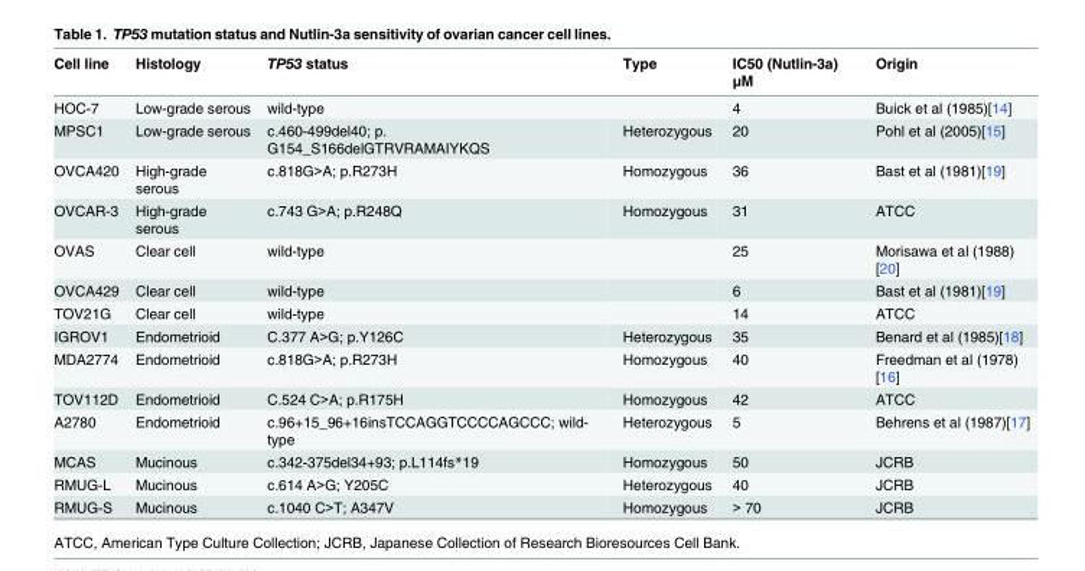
<table><thead><tr><td>Cell line</td><td>Histology</td><td>TP53 status</td><td>Type</td><td>IC50 (Nutlin-3a) μM</td><td>Origin</td></tr></thead><tbody><tr><td>HOC-7</td><td>Low-grade serous</td><td>wild-type</td><td></td><td>4</td><td>Buick et al (1985)[14]</td></tr><tr><td>MPSC1</td><td>Low-grade serous</td><td>c.460-499del40; p. G154_S166delGTRVRAMAIYKQS</td><td>Heterozygous</td><td>20</td><td>Pohl et al (2005)[15]</td></tr><tr><td>OVCA420</td><td>High-grade serous</td><td>c.818G&gt;A; p.R273H</td><td>Homozygous</td><td>36</td><td>Bast et al (1981)[19]</td></tr><tr><td>OVCAR-3</td><td>High-grade serous</td><td>c.743 G&gt;A; p.R248Q</td><td>Homozygous</td><td>31</td><td>ATCC</td></tr><tr><td>OVAS</td><td>Clear cell</td><td>wild-type</td><td></td><td>25</td><td>Morisawa et al (1988) [20]</td></tr><tr><td>OVCA429</td><td>Clear cell</td><td>wild-type</td><td></td><td>6</td><td>Bast et al (1981)[19]</td></tr><tr><td>TOV21G</td><td>Clear cell</td><td>wild-type</td><td></td><td>14</td><td>ATCC</td></tr><tr><td>IGROV1</td><td>Endometrioid</td><td>C.377 A&gt;G; p.Y126C</td><td>Heterozygous</td><td>35</td><td>Benard et al (1985)[18]</td></tr><tr><td>MDA2774</td><td>Endometrioid</td><td>c.818G&gt;A; p.R273H</td><td>Homozygous</td><td>40</td><td>Freedman et al (1978) [16]</td></tr><tr><td>TOV112D</td><td>Endometrioid</td><td>C.524 C&gt;A; p.R175H</td><td>Homozygous</td><td>42</td><td>ATCC</td></tr><tr><td>A2780</td><td>Endometrioid</td><td>c.96+15_96+16insTCCAGGTCCCCAGCCC; wild- type</td><td>Heterozygous</td><td>5</td><td>Behrens et al (1987)[17]</td></tr><tr><td>MCAS</td><td>Mucinous</td><td>c.342-375del34+93; p.L114fs*19</td><td>Homozygous</td><td>50</td><td>JCRB</td></tr><tr><td>RMUG-L</td><td>Mucinous</td><td>c.614 A&gt;G; Y205C</td><td>Heterozygous</td><td>40</td><td>JCRB</td></tr><tr><td>RMUG-S</td><td>Mucinous</td><td>c.1040 C&gt;T; A347V</td><td>Homozygous</td><td>&gt; 70</td><td>JCRB</td></tr></tbody></table>